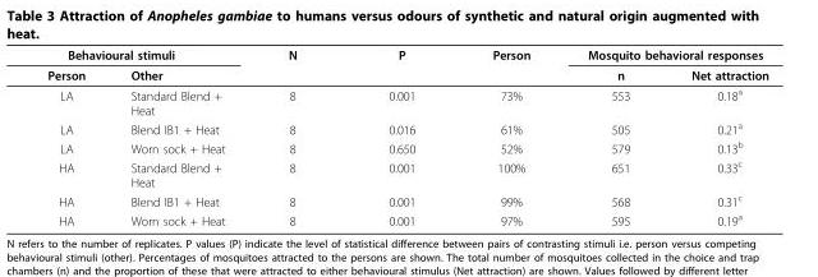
<table><thead><tr><td colspan="2">Behavioural stimuli</td><td rowspan="2">N</td><td rowspan="2">P</td><td rowspan="2">Person</td><td colspan="2">Mosquito behavioral responses</td></tr><tr><td>Person</td><td>Other</td><td>n</td><td>Net attraction</td></tr></thead><tbody><tr><td>LA</td><td>Standard Blend + Heat</td><td>8</td><td>0.001</td><td>73%</td><td>553</td><td>0.18<sup>a</sup></td></tr><tr><td>LA</td><td>Blend IB1 + Heat</td><td>8</td><td>0.016</td><td>61%</td><td>505</td><td>0.21<sup>a</sup></td></tr><tr><td>LA</td><td>Worn sock + Heat</td><td>8</td><td>0.650</td><td>52%</td><td>579</td><td>0.13<sup>b</sup></td></tr><tr><td>HA</td><td>Standard Blend + Heat</td><td>8</td><td>0.001</td><td>100%</td><td>651</td><td>0.33<sup>c</sup></td></tr><tr><td>HA</td><td>Blend IB1 + Heat</td><td>8</td><td>0.001</td><td>99%</td><td>568</td><td>0.31<sup>c</sup></td></tr><tr><td>HA</td><td>Worn sock + Heat</td><td>8</td><td>0.001</td><td>97%</td><td>595</td><td>0.19<sup>a</sup></td></tr></tbody></table>